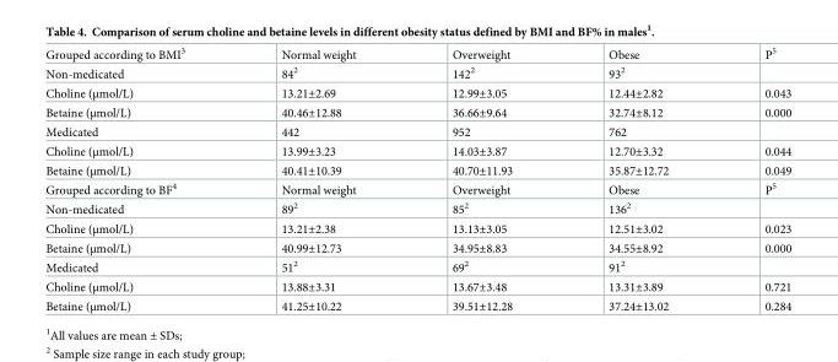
<table><tbody><tr><td>Grouped according to BMI<sup>3</sup></td><td>Normal weight</td><td>Overweight</td><td>Obese</td><td>P<sup>5</sup></td></tr><tr><td>Non-medicated</td><td>84<sup>2</sup></td><td>142<sup>2</sup></td><td>93<sup>2</sup></td><td></td></tr><tr><td>Choline (μmol/L)</td><td>13.21±2.69</td><td>12.99±3.05</td><td>12.44±2.82</td><td>0.043</td></tr><tr><td>Betaine (μmol/L)</td><td>40.46±12.88</td><td>36.66±9.64</td><td>32.74±8.12</td><td>0.000</td></tr><tr><td>Medicated</td><td>442</td><td>952</td><td>762</td><td></td></tr><tr><td>Choline (μmol/L)</td><td>13.99±3.23</td><td>14.03±3.87</td><td>12.70±3.32</td><td>0.044</td></tr><tr><td>Betaine (μmol/L)</td><td>40.41±10.39</td><td>40.70±11.93</td><td>35.87±12.72</td><td>0.049</td></tr><tr><td>Grouped according to BF<sup>4</sup></td><td>Normal weight</td><td>Overweight</td><td>Obese</td><td>P<sup>5</sup></td></tr><tr><td>Non-medicated</td><td>89<sup>2</sup></td><td>85<sup>2</sup></td><td>136<sup>2</sup></td><td></td></tr><tr><td>Choline (μmol/L)</td><td>13.21±2.38</td><td>13.13±3.05</td><td>12.51±3.02</td><td>0.023</td></tr><tr><td>Betaine (μmol/L)</td><td>40.99±12.73</td><td>34.95±8.83</td><td>34.55±8.92</td><td>0.000</td></tr><tr><td>Medicated</td><td>51<sup>2</sup></td><td>69<sup>2</sup></td><td>91<sup>2</sup></td><td></td></tr><tr><td>Choline (μmol/L)</td><td>13.88±3.31</td><td>13.67±3.48</td><td>13.31±3.89</td><td>0.721</td></tr><tr><td>Betaine (μmol/L)</td><td>41.25±10.22</td><td>39.51±12.28</td><td>37.24±13.02</td><td>0.284</td></tr></tbody></table>